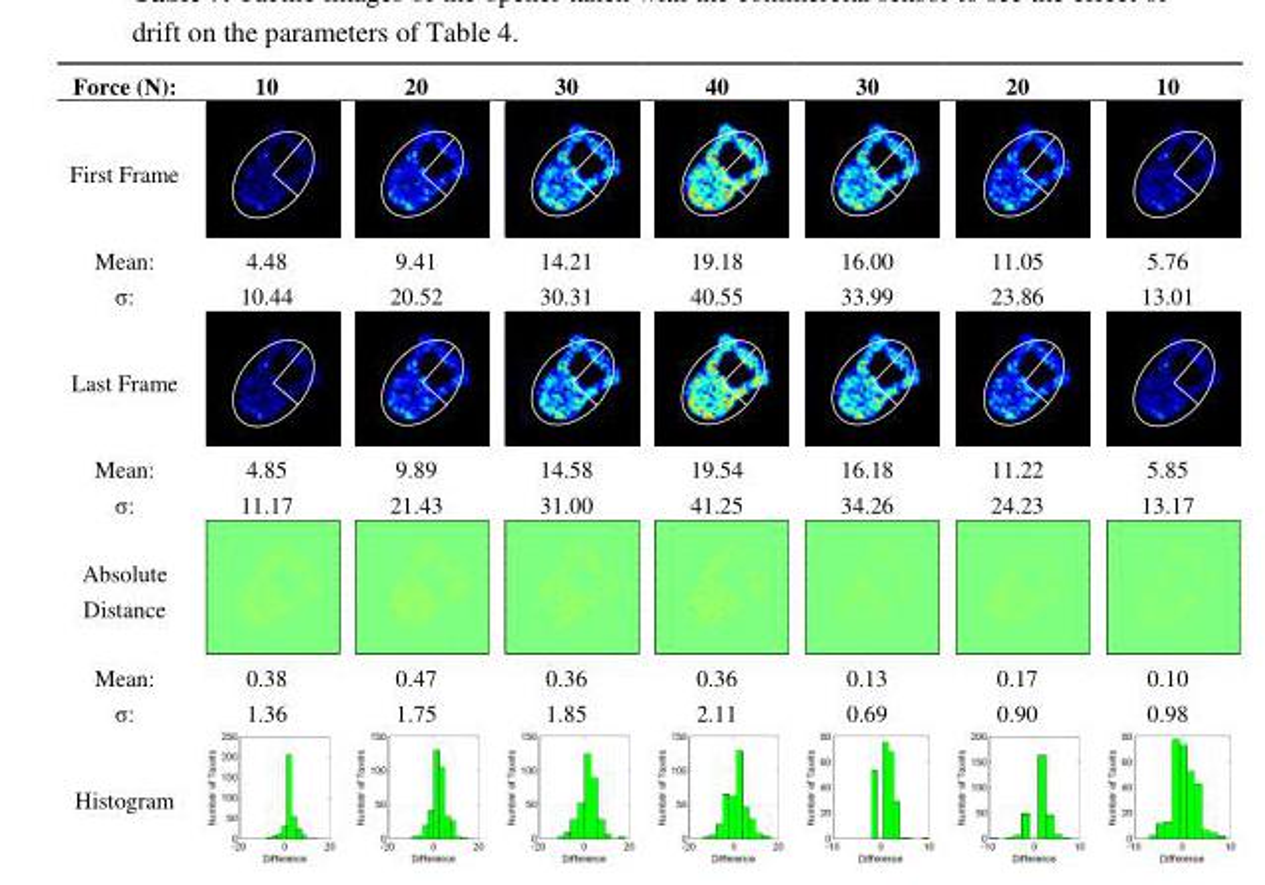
<table><thead><tr><td>Force (N):</td><td>10</td><td>20</td><td>30</td><td>40</td><td>30</td><td>20</td><td>10</td></tr></thead><tbody><tr><td colspan="8">First Frame</td></tr><tr><td>Mean:</td><td>4.48</td><td>9.41</td><td>14.21</td><td>19.18</td><td>16.00</td><td>11.05</td><td>5.76</td></tr><tr><td>σ:</td><td>10.44</td><td>20.52</td><td>30.31</td><td>40.55</td><td>33.99</td><td>23.86</td><td>13.01</td></tr><tr><td colspan="8">Last Frame</td></tr><tr><td>Mean:</td><td>4.85</td><td>9.89</td><td>14.58</td><td>19.54</td><td>16.18</td><td>11.22</td><td>5.85</td></tr><tr><td>σ:</td><td>11.17</td><td>21.43</td><td>31.00</td><td>41.25</td><td>34.26</td><td>24.23</td><td>13.17</td></tr><tr><td colspan="8">Absolute Distance</td></tr><tr><td>Mean:</td><td>0.38</td><td>0.47</td><td>0.36</td><td>0.36</td><td>0.13</td><td>0.17</td><td>0.10</td></tr><tr><td>σ:</td><td>1.36</td><td>1.75</td><td>1.85</td><td>2.11</td><td>0.69</td><td>0.90</td><td>0.98</td></tr><tr><td>Histogram</td><td></td><td></td><td></td><td></td><td></td><td></td><td></td></tr></tbody></table>